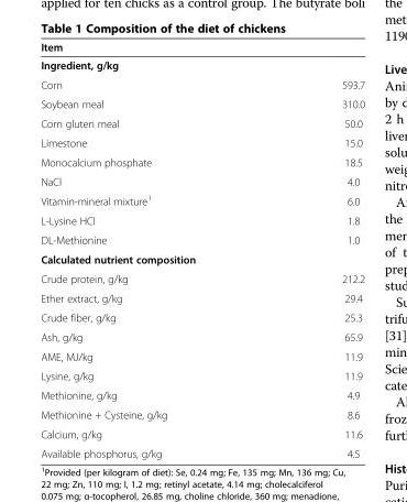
<table><thead><tr><td>Item</td><td></td></tr></thead><tbody><tr><td colspan="2">Ingredient, g/kg</td></tr><tr><td>Corn</td><td>593.7</td></tr><tr><td>Soybean meal</td><td>310.0</td></tr><tr><td>Corn gluten meal</td><td>50.0</td></tr><tr><td>Limestone</td><td>15.0</td></tr><tr><td>Monocalcium phosphate</td><td>18.5</td></tr><tr><td>NaCl</td><td>4.0</td></tr><tr><td>Vitamin-mineral mixture<sup>1</sup></td><td>6.0</td></tr><tr><td>L-Lysine HCl</td><td>1.8</td></tr><tr><td>DL-Methionine</td><td>1.0</td></tr><tr><td colspan="2">Calculated nutrient composition</td></tr><tr><td>Crude protein, g/kg</td><td>212.2</td></tr><tr><td>Ether extract, g/kg</td><td>29.4</td></tr><tr><td>Crude fiber, g/kg</td><td>25.3</td></tr><tr><td>Ash, g/kg</td><td>65.9</td></tr><tr><td>AME, MJ/kg</td><td>11.9</td></tr><tr><td>Lysine, g/kg</td><td>11.9</td></tr><tr><td>Methionine, g/kg</td><td>4.9</td></tr><tr><td>Methionine + Cysteine, g/kg</td><td>8.6</td></tr><tr><td>Calcium, g/kg</td><td>11.6</td></tr><tr><td>Available phosphorus, g/kg</td><td>4.5</td></tr></tbody></table>